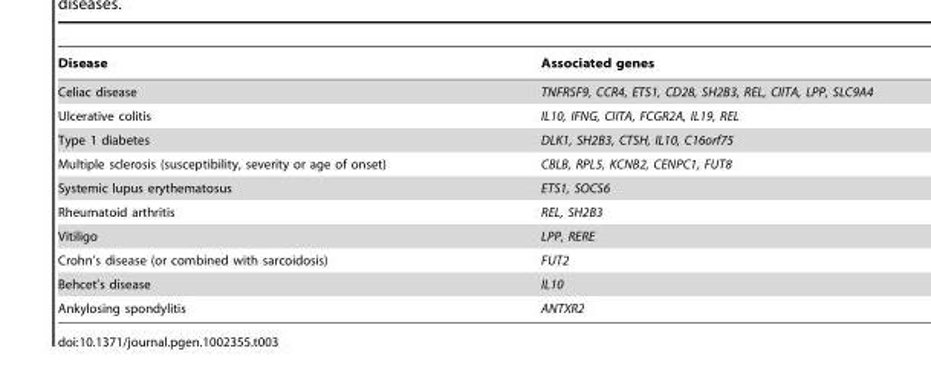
<table><thead><tr><td>Disease</td><td>Associated genes</td></tr></thead><tbody><tr><td>Celiac disease</td><td>TNFRSF9, CCR4, ETS1, CD28, SH2B3, REL, CIITA, LPP, SLC9A4</td></tr><tr><td>Ulcerative colitis</td><td>IL10, IFNG, CIITA, FCGR2A, IL19, REL</td></tr><tr><td>Type 1 diabetes</td><td>DLK1, SH2B3, CTSH, IL10, C16orf75</td></tr><tr><td>Multiple sclerosis (susceptibility, severity or age of onset)</td><td>CBLB, RPL5, KCNB2, CENPC1, FUT8</td></tr><tr><td>Systemic lupus erythematosus</td><td>ETS1, SOCS6</td></tr><tr><td>Rheumatoid arthritis</td><td>REL, SH2B3</td></tr><tr><td>Vitiligo</td><td>LPP, RERE</td></tr><tr><td>Crohn’s disease (or combined with sarcoidosis)</td><td>FUT2</td></tr><tr><td>Behcet’s disease</td><td>IL10</td></tr><tr><td>Ankylosing spondylitis</td><td>ANTXR2</td></tr></tbody></table>